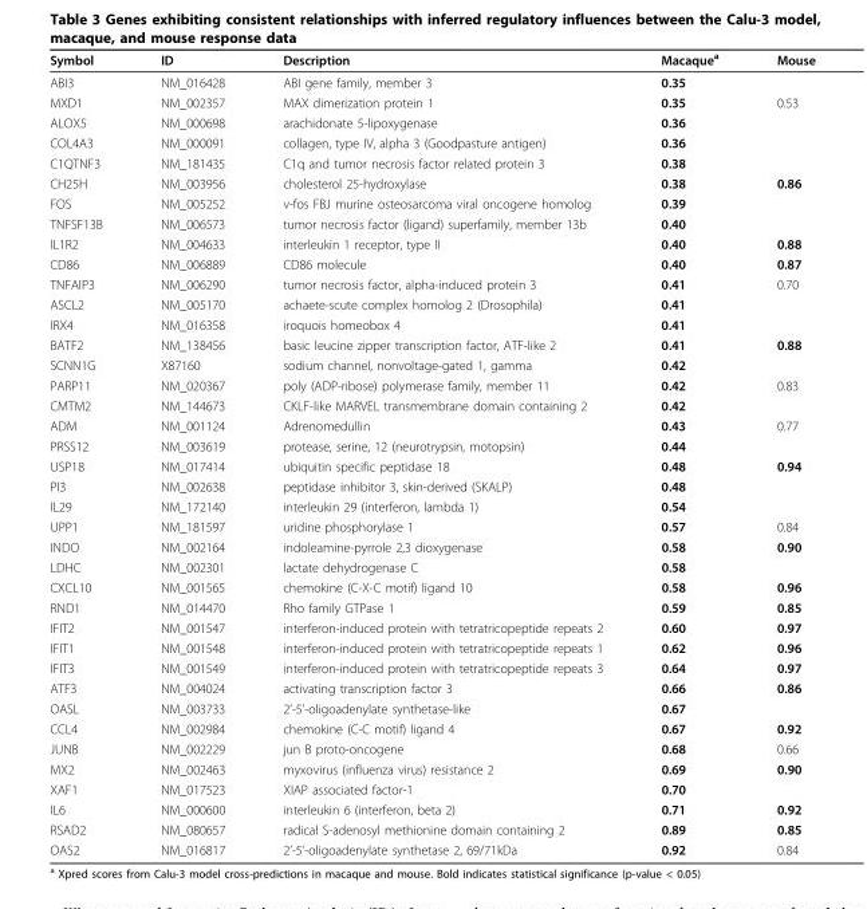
<table><thead><tr><td>Symbol</td><td>ID</td><td>Description</td><td>Macaque<sup>a</sup></td><td>Mouse</td></tr></thead><tbody><tr><td>ABI3</td><td>NM_016428</td><td>ABI gene family, member 3</td><td>0.35</td><td></td></tr><tr><td>MXD1</td><td>NM_002357</td><td>MAX dimerization protein 1</td><td>0.35</td><td>0.53</td></tr><tr><td>ALOX5</td><td>NM_000698</td><td>arachidonate 5-lipoxygenase</td><td>0.36</td><td></td></tr><tr><td>COL4A3</td><td>NM_000091</td><td>collagen, type IV, alpha 3 (Goodpasture antigen)</td><td>0.36</td><td></td></tr><tr><td>C1QTNF3</td><td>NM_181435</td><td>C1q and tumor necrosis factor related protein 3</td><td>0.38</td><td></td></tr><tr><td>CH25H</td><td>NM_003956</td><td>cholesterol 25-hydroxylase</td><td>0.38</td><td>0.86</td></tr><tr><td>FOS</td><td>NM_005252</td><td>v-fos FBJ murine osteosarcoma viral oncogene homolog</td><td>0.39</td><td></td></tr><tr><td>TNFSF13B</td><td>NM_006573</td><td>tumor necrosis factor (ligand) superfamily, member 13b</td><td>0.40</td><td></td></tr><tr><td>IL1R2</td><td>NM_004633</td><td>interleukin 1 receptor, type II</td><td>0.40</td><td>0.88</td></tr><tr><td>CD86</td><td>NM_006889</td><td>CD86 molecule</td><td>0.40</td><td>0.87</td></tr><tr><td>TNFAIP3</td><td>NM_006290</td><td>tumor necrosis factor, alpha-induced protein 3</td><td>0.41</td><td>0.70</td></tr><tr><td>ASCL2</td><td>NM_005170</td><td>achaete-scute complex homolog 2 (Drosophila)</td><td>0.41</td><td></td></tr><tr><td>IRX4</td><td>NM_016358</td><td>iroquois homeobox 4</td><td>0.41</td><td></td></tr><tr><td>BATF2</td><td>NM_138456</td><td>basic leucine zipper transcription factor, ATF-like 2</td><td>0.41</td><td>0.88</td></tr><tr><td>SCNN1G</td><td>X87160</td><td>sodium channel, nonvoltage-gated 1, gamma</td><td>0.42</td><td></td></tr><tr><td>PARP11</td><td>NM_020367</td><td>poly (ADP-ribose) polymerase family, member 11</td><td>0.42</td><td>0.83</td></tr><tr><td>CMTM2</td><td>NM_144673</td><td>CKLF-like MARVEL transmembrane domain containing 2</td><td>0.42</td><td></td></tr><tr><td>ADM</td><td>NM_001124</td><td>Adrenomedullin</td><td>0.43</td><td>0.77</td></tr><tr><td>PRSS12</td><td>NM_003619</td><td>protease, serine, 12 (neurotrypsin, motopsin)</td><td>0.44</td><td></td></tr><tr><td>USP18</td><td>NM_017414</td><td>ubiquitin specific peptidase 18</td><td>0.48</td><td>0.94</td></tr><tr><td>PI3</td><td>NM_002638</td><td>peptidase inhibitor 3, skin-derived (SKALP)</td><td>0.48</td><td></td></tr><tr><td>IL29</td><td>NM_172140</td><td>interleukin 29 (interferon, lambda 1)</td><td>0.54</td><td></td></tr><tr><td>UPP1</td><td>NM_181597</td><td>uridine phosphorylase 1</td><td>0.57</td><td>0.84</td></tr><tr><td>INDO</td><td>NM_002164</td><td>indoleamine-pyrrole 2,3 dioxygenase</td><td>0.58</td><td>0.90</td></tr><tr><td>LDHC</td><td>NM_002301</td><td>lactate dehydrogenase C</td><td>0.58</td><td></td></tr><tr><td>CXCL10</td><td>NM_001565</td><td>chemokine (C-X-C motif) ligand 10</td><td>0.58</td><td>0.96</td></tr><tr><td>RND1</td><td>NM_014470</td><td>Rho family GTPase 1</td><td>0.59</td><td>0.85</td></tr><tr><td>IFIT2</td><td>NM_001547</td><td>interferon-induced protein with tetratricopeptide repeats 2</td><td>0.60</td><td>0.97</td></tr><tr><td>IFIT1</td><td>NM_001548</td><td>interferon-induced protein with tetratricopeptide repeats 1</td><td>0.62</td><td>0.96</td></tr><tr><td>IFIT3</td><td>NM_001549</td><td>interferon-induced protein with tetratricopeptide repeats 3</td><td>0.64</td><td>0.97</td></tr><tr><td>ATF3</td><td>NM_004024</td><td>activating transcription factor 3</td><td>0.66</td><td>0.86</td></tr><tr><td>OASL</td><td>NM_003733</td><td>2’-5’-oligoadenylate synthetase-like</td><td>0.67</td><td></td></tr><tr><td>CCL4</td><td>NM_002984</td><td>chemokine (C-C motif) ligand 4</td><td>0.67</td><td>0.92</td></tr><tr><td>JUNB</td><td>NM_002229</td><td>jun B proto-oncogene</td><td>0.68</td><td>0.66</td></tr><tr><td>MX2</td><td>NM_002463</td><td>myxovirus (influenza virus) resistance 2</td><td>0.69</td><td>0.90</td></tr><tr><td>XAF1</td><td>NM_017523</td><td>XIAP associated factor-1</td><td>0.70</td><td></td></tr><tr><td>IL6</td><td>NM_000600</td><td>interleukin 6 (interferon, beta 2)</td><td>0.71</td><td>0.92</td></tr><tr><td>RSAD2</td><td>NM_080657</td><td>radical S-adenosyl methionine domain containing 2</td><td>0.89</td><td>0.85</td></tr><tr><td>OAS2</td><td>NM_016817</td><td>2’-5’-oligoadenylate synthetase 2, 69/71kDa</td><td>0.92</td><td>0.84</td></tr></tbody></table>